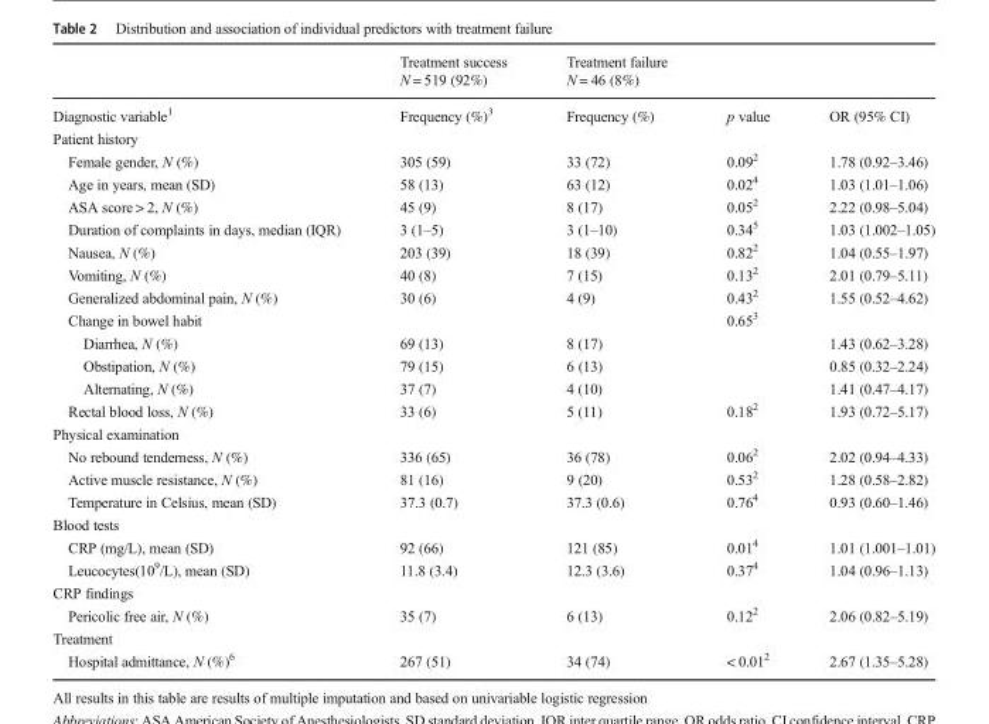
<table><thead><tr><td></td><td>Treatment success N = 519 (92%)</td><td>Treatment failure N = 46 (8%)</td><td></td><td></td></tr></thead><tbody><tr><td>Diagnostic variable<sup>1</sup></td><td>Frequency (%)<sup>3</sup></td><td>Frequency (%)</td><td>p value</td><td>OR (95% CI)</td></tr><tr><td colspan="5">Patient history</td></tr><tr><td>Female gender, N (%)</td><td>305 (59)</td><td>33 (72)</td><td>0.09<sup>2</sup></td><td>1.78 (0.92–3.46)</td></tr><tr><td>Age in years, mean (SD)</td><td>58 (13)</td><td>63 (12)</td><td>0.02<sup>4</sup></td><td>1.03 (1.01–1.06)</td></tr><tr><td>ASA score &gt; 2, N (%)</td><td>45 (9)</td><td>8 (17)</td><td>0.05<sup>2</sup></td><td>2.22 (0.98–5.04)</td></tr><tr><td>Duration of complaints in days, median (IQR)</td><td>3 (1–5)</td><td>3 (1–10)</td><td>0.34<sup>5</sup></td><td>1.03 (1.002–1.05)</td></tr><tr><td>Nausea, N (%)</td><td>203 (39)</td><td>18 (39)</td><td>0.82<sup>2</sup></td><td>1.04 (0.55–1.97)</td></tr><tr><td>Vomiting, N (%)</td><td>40 (8)</td><td>7 (15)</td><td>0.13<sup>2</sup></td><td>2.01 (0.79–5.11)</td></tr><tr><td>Generalized abdominal pain, N (%)</td><td>30 (6)</td><td>4 (9)</td><td>0.43<sup>2</sup></td><td>1.55 (0.52–4.62)</td></tr><tr><td>Change in bowel habit</td><td></td><td></td><td>0.65<sup>3</sup></td><td></td></tr><tr><td>Diarrhea, N (%)</td><td>69 (13)</td><td>8 (17)</td><td></td><td>1.43 (0.62–3.28)</td></tr><tr><td>Obstipation, N (%)</td><td>79 (15)</td><td>6 (13)</td><td></td><td>0.85 (0.32–2.24)</td></tr><tr><td>Alternating, N (%)</td><td>37 (7)</td><td>4 (10)</td><td></td><td>1.41 (0.47–4.17)</td></tr><tr><td>Rectal blood loss, N (%)</td><td>33 (6)</td><td>5 (11)</td><td>0.18<sup>2</sup></td><td>1.93 (0.72–5.17)</td></tr><tr><td colspan="5">Physical examination</td></tr><tr><td>No rebound tenderness, N (%)</td><td>336 (65)</td><td>36 (78)</td><td>0.06<sup>2</sup></td><td>2.02 (0.94–4.33)</td></tr><tr><td>Active muscle resistance, N (%)</td><td>81 (16)</td><td>9 (20)</td><td>0.53<sup>2</sup></td><td>1.28 (0.58–2.82)</td></tr><tr><td>Temperature in Celsius, mean (SD)</td><td>37.3 (0.7)</td><td>37.3 (0.6)</td><td>0.76<sup>4</sup></td><td>0.93 (0.60–1.46)</td></tr><tr><td colspan="5">Blood tests</td></tr><tr><td>CRP (mg/L), mean (SD)</td><td>92 (66)</td><td>121 (85)</td><td>0.01<sup>4</sup></td><td>1.01 (1.001–1.01)</td></tr><tr><td>Leucocytes(10<sup>9</sup>/L), mean (SD)</td><td>11.8 (3.4)</td><td>12.3 (3.6)</td><td>0.37<sup>4</sup></td><td>1.04 (0.96–1.13)</td></tr><tr><td colspan="5">CRP findings</td></tr><tr><td>Pericolic free air, N (%)</td><td>35 (7)</td><td>6 (13)</td><td>0.12<sup>2</sup></td><td>2.06 (0.82–5.19)</td></tr><tr><td colspan="5">Treatment</td></tr><tr><td>Hospital admittance, N (%)<sup>6</sup></td><td>267 (51)</td><td>34 (74)</td><td>&lt; 0.01<sup>2</sup></td><td>2.67 (1.35–5.28)</td></tr></tbody></table>